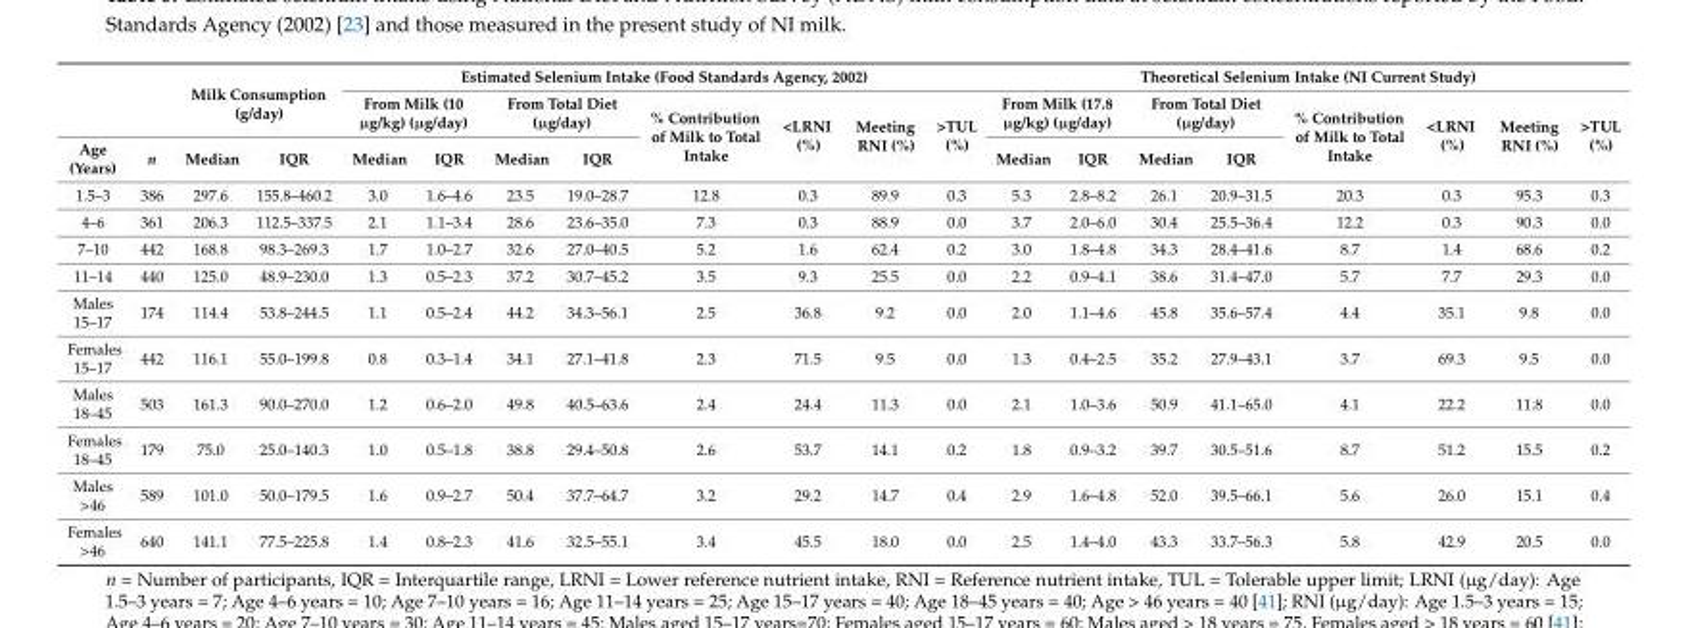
<table><thead><tr><td rowspan="3">Age (Years)</td><td rowspan="3">n</td><td rowspan="2" colspan="2">Milk Consumption (g/day)</td><td colspan="8">Estimated Selenium Intake (Food Standards Agency, 2002)</td><td colspan="8">Theoretical Selenium Intake (NI Current Study)</td></tr><tr><td colspan="2">From Milk (10 µg/kg) (µg/day)</td><td colspan="2">From Total Diet (µg/day)</td><td rowspan="2">% Contribution of Milk to Total Intake</td><td rowspan="2">&lt;LRNI (%)</td><td rowspan="2">Meeting RNI (%)</td><td rowspan="2">&gt;TUL (%)</td><td colspan="2">From Milk (17.8 µg/kg) (µg/day)</td><td colspan="2">From Total Diet (µg/day)</td><td rowspan="2">% Contribution of Milk to Total Intake</td><td rowspan="2">&lt;LRNI (%)</td><td rowspan="2">Meeting RNI (%)</td><td rowspan="2">&gt;TUL (%)</td></tr><tr><td>Median</td><td>IQR</td><td>Median</td><td>IQR</td><td>Median</td><td>IQR</td><td>Median</td><td>IQR</td><td>Median</td><td>IQR</td></tr></thead><tbody><tr><td>1.5–3</td><td>386</td><td>297.6</td><td>155.8–460.2</td><td>3.0</td><td>1.6–4.6</td><td>23.5</td><td>19.0–28.7</td><td>12.8</td><td>0.3</td><td>89.9</td><td>0.3</td><td>5.3</td><td>2.8–8.2</td><td>26.1</td><td>20.9–31.5</td><td>20.3</td><td>0.3</td><td>95.3</td><td>0.3</td></tr><tr><td>4–6</td><td>361</td><td>206.3</td><td>112.5–337.5</td><td>2.1</td><td>1.1–3.4</td><td>28.6</td><td>23.6–35.0</td><td>7.3</td><td>0.3</td><td>88.9</td><td>0.0</td><td>3.7</td><td>2.0–6.0</td><td>30.4</td><td>25.5–36.4</td><td>12.2</td><td>0.3</td><td>90.3</td><td>0.0</td></tr><tr><td>7–10</td><td>442</td><td>168.8</td><td>98.3–269.3</td><td>1.7</td><td>1.0–2.7</td><td>32.6</td><td>27.0–40.5</td><td>5.2</td><td>1.6</td><td>62.4</td><td>0.2</td><td>3.0</td><td>1.8–4.8</td><td>34.3</td><td>28.4–41.6</td><td>8.7</td><td>1.4</td><td>68.6</td><td>0.2</td></tr><tr><td>11–14</td><td>440</td><td>125.0</td><td>48.9–230.0</td><td>1.3</td><td>0.5–2.3</td><td>37.2</td><td>30.7–45.2</td><td>3.5</td><td>9.3</td><td>25.5</td><td>0.0</td><td>2.2</td><td>0.9–4.1</td><td>38.6</td><td>31.4–47.0</td><td>5.7</td><td>7.7</td><td>29.3</td><td>0.0</td></tr><tr><td>Males 15–17</td><td>174</td><td>114.4</td><td>53.8–244.5</td><td>1.1</td><td>0.5–2.4</td><td>44.2</td><td>34.3–56.1</td><td>2.5</td><td>36.8</td><td>9.2</td><td>0.0</td><td>2.0</td><td>1.1–4.6</td><td>45.8</td><td>35.6–57.4</td><td>4.4</td><td>35.1</td><td>9.8</td><td>0.0</td></tr><tr><td>Females 15–17</td><td>442</td><td>116.1</td><td>55.0–199.8</td><td>0.8</td><td>0.3–1.4</td><td>34.1</td><td>27.1–41.8</td><td>2.3</td><td>71.5</td><td>9.5</td><td>0.0</td><td>1.3</td><td>0.4–2.5</td><td>35.2</td><td>27.9–43.1</td><td>3.7</td><td>69.3</td><td>9.5</td><td>0.0</td></tr><tr><td>Males 18–45</td><td>503</td><td>161.3</td><td>90.0–270.0</td><td>1.2</td><td>0.6–2.0</td><td>49.8</td><td>40.5–63.6</td><td>2.4</td><td>24.4</td><td>11.3</td><td>0.0</td><td>2.1</td><td>1.0–3.6</td><td>50.9</td><td>41.1–65.0</td><td>4.1</td><td>22.2</td><td>11.8</td><td>0.0</td></tr><tr><td>Females 18–45</td><td>179</td><td>75.0</td><td>25.0–140.3</td><td>1.0</td><td>0.5–1.8</td><td>38.8</td><td>29.4–50.8</td><td>2.6</td><td>53.7</td><td>14.1</td><td>0.2</td><td>1.8</td><td>0.9–3.2</td><td>39.7</td><td>30.5–51.6</td><td>8.7</td><td>51.2</td><td>15.5</td><td>0.2</td></tr><tr><td>Males &gt;46</td><td>589</td><td>101.0</td><td>50.0–179.5</td><td>1.6</td><td>0.9–2.7</td><td>50.4</td><td>37.7–64.7</td><td>3.2</td><td>29.2</td><td>14.7</td><td>0.4</td><td>2.9</td><td>1.6–4.8</td><td>52.0</td><td>39.5–66.1</td><td>5.6</td><td>26.0</td><td>15.1</td><td>0.4</td></tr><tr><td>Females &gt;46</td><td>640</td><td>141.1</td><td>77.5–225.8</td><td>1.4</td><td>0.8–2.3</td><td>41.6</td><td>32.5–55.1</td><td>3.4</td><td>45.5</td><td>18.0</td><td>0.0</td><td>2.5</td><td>1.4–4.0</td><td>43.3</td><td>33.7–56.3</td><td>5.8</td><td>42.9</td><td>20.5</td><td>0.0</td></tr></tbody></table>